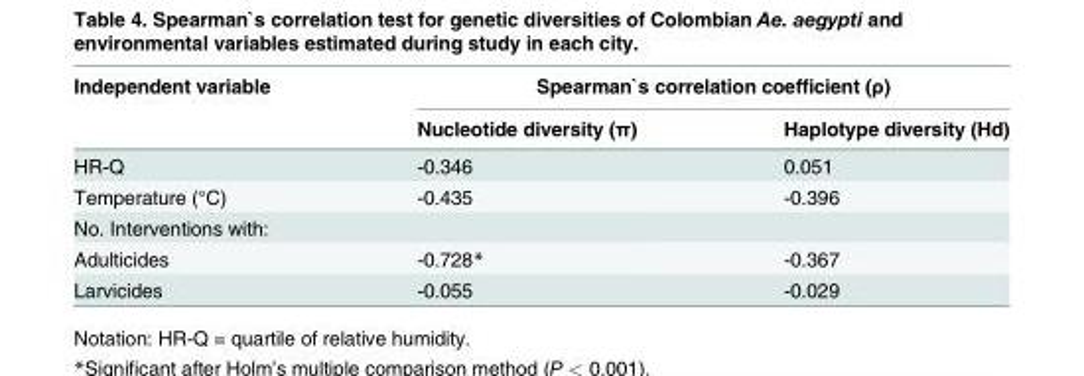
<table><thead><tr><td rowspan="2">Independent variable</td><td colspan="2">Spearman`s correlation coefficient (ρ)</td></tr><tr><td>Nucleotide diversity (π)</td><td>Haplotype diversity (Hd)</td></tr></thead><tbody><tr><td>HR-Q</td><td>-0.346</td><td>0.051</td></tr><tr><td>Temperature (°C)</td><td>-0.435</td><td>-0.396</td></tr><tr><td colspan="3">No. Interventions with:</td></tr><tr><td>Adulticides</td><td>-0.728*</td><td>-0.367</td></tr><tr><td>Larvicides</td><td>-0.055</td><td>-0.029</td></tr></tbody></table>